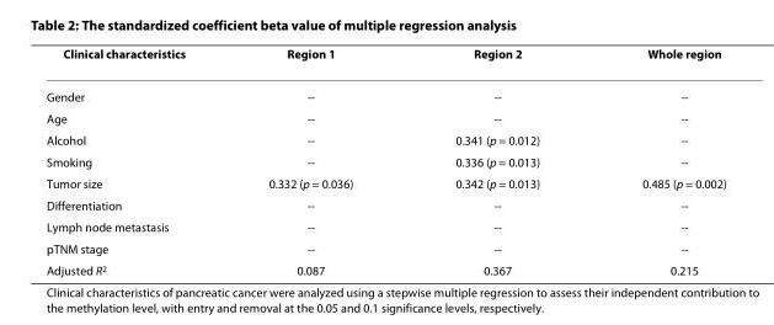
<table><thead><tr><td>Clinical characteristics</td><td>Region 1</td><td>Region 2</td><td>Whole region</td></tr></thead><tbody><tr><td>Gender</td><td>--</td><td>--</td><td>--</td></tr><tr><td>Age</td><td>--</td><td>--</td><td>--</td></tr><tr><td>Alcohol</td><td>--</td><td>0.341 (p = 0.012)</td><td>--</td></tr><tr><td>Smoking</td><td>--</td><td>0.336 (p = 0.013)</td><td>--</td></tr><tr><td>Tumor size</td><td>0.332 (p = 0.036)</td><td>0.342 (p = 0.013)</td><td>0.485 (p = 0.002)</td></tr><tr><td>Differentiation</td><td>--</td><td>--</td><td>--</td></tr><tr><td>Lymph node metastasis</td><td>--</td><td>--</td><td>--</td></tr><tr><td>pTNM stage</td><td>--</td><td>--</td><td>--</td></tr><tr><td>Adjusted R<sup>2</sup></td><td>0.087</td><td>0.367</td><td>0.215</td></tr></tbody></table>